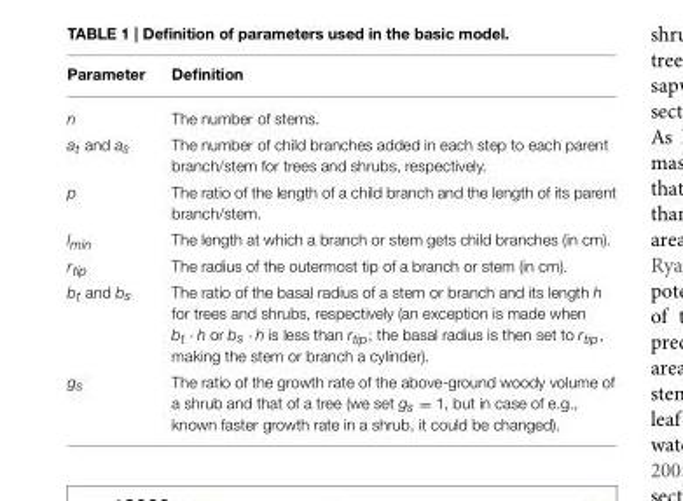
<table><thead><tr><td>Parameter</td><td>Definition</td></tr></thead><tbody><tr><td>n</td><td>The number of stems.</td></tr><tr><td>at and as</td><td>The number of child branches added in each step to each parent branch/stem for trees and shrubs, respectively.</td></tr><tr><td>p</td><td>The ratio of the length of a child branch and the length of its parent branch/stem.</td></tr><tr><td>l<sub>min</sub></td><td>The length at which a branch or stem gets child branches (in cm).</td></tr><tr><td>r<sub>tip</sub></td><td>The radius of the outermost tip of a branch or stem (in cm).</td></tr><tr><td>bt and bs</td><td>The ratio of the basal radius of a stem or branch and its length h for trees and shrubs, respectively (an exception is made when b<sub>t</sub> · h or b<sub>s</sub> · h is less than r<sub>tip</sub>; the basal radius is then set to r<sub>tip</sub>, making the stem or branch a cylinder).</td></tr><tr><td>gs</td><td>The ratio of the growth rate of the above-ground woody volume of a shrub and that of a tree (we set gs = 1, but in case of e.g., known faster growth rate in a shrub, it could be changed).</td></tr></tbody></table>